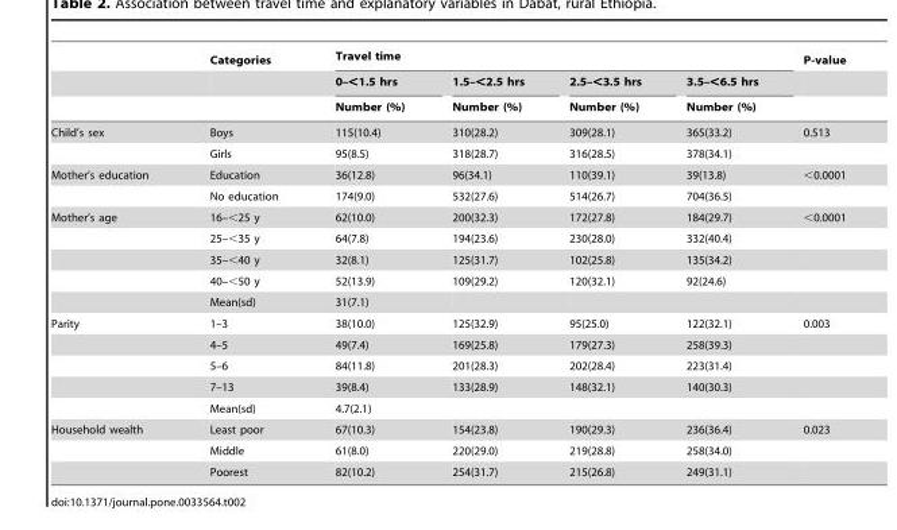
<table><thead><tr><td rowspan="3"></td><td rowspan="3">Categories</td><td colspan="4">Travel time</td><td rowspan="3">P-value</td></tr><tr><td rowspan="2">0–&lt;1.5 hrs Number (%)</td><td rowspan="2">1.5–&lt;2.5 hrs Number (%)</td><td rowspan="2">2.5–&lt;3.5 hrs Number (%)</td><td rowspan="2">3.5–&lt;6.5 hrs Number (%)</td></tr><tr></tr></thead><tbody><tr><td rowspan="2">Child’s sex</td><td>Boys</td><td>115(10.4)</td><td>310(28.2)</td><td>309(28.1)</td><td>365(33.2)</td><td>0.513</td></tr><tr><td>Girls</td><td>95(8.5)</td><td>318(28.7)</td><td>316(28.5)</td><td>378(34.1)</td><td></td></tr><tr><td rowspan="2">Mother’s education</td><td>Education</td><td>36(12.8)</td><td>96(34.1)</td><td>110(39.1)</td><td>39(13.8)</td><td>&lt;0.0001</td></tr><tr><td>No education</td><td>174(9.0)</td><td>532(27.6)</td><td>514(26.7)</td><td>704(36.5)</td><td></td></tr><tr><td rowspan="5">Mother’s age</td><td>16–&lt;25 y</td><td>62(10.0)</td><td>200(32.3)</td><td>172(27.8)</td><td>184(29.7)</td><td>&lt;0.0001</td></tr><tr><td>25–&lt;35 y</td><td>64(7.8)</td><td>194(23.6)</td><td>230(28.0)</td><td>332(40.4)</td><td></td></tr><tr><td>35–&lt;40 y</td><td>32(8.1)</td><td>125(31.7)</td><td>102(25.8)</td><td>135(34.2)</td><td></td></tr><tr><td>40–&lt;50 y</td><td>52(13.9)</td><td>109(29.2)</td><td>120(32.1)</td><td>92(24.6)</td><td></td></tr><tr><td>Mean(sd)</td><td>31(7.1)</td><td></td><td></td><td></td><td></td></tr><tr><td rowspan="5">Parity</td><td>1–3</td><td>38(10.0)</td><td>125(32.9)</td><td>95(25.0)</td><td>122(32.1)</td><td>0.003</td></tr><tr><td>4–5</td><td>49(7.4)</td><td>169(25.8)</td><td>179(27.3)</td><td>258(39.3)</td><td></td></tr><tr><td>5–6</td><td>84(11.8)</td><td>201(28.3)</td><td>202(28.4)</td><td>223(31.4)</td><td></td></tr><tr><td>7–13</td><td>39(8.4)</td><td>133(28.9)</td><td>148(32.1)</td><td>140(30.3)</td><td></td></tr><tr><td>Mean(sd)</td><td>4.7(2.1)</td><td></td><td></td><td></td><td></td></tr><tr><td rowspan="3">Household wealth</td><td>Least poor</td><td>67(10.3)</td><td>154(23.8)</td><td>190(29.3)</td><td>236(36.4)</td><td>0.023</td></tr><tr><td>Middle</td><td>61(8.0)</td><td>220(29.0)</td><td>219(28.8)</td><td>258(34.0)</td><td></td></tr><tr><td>Poorest</td><td>82(10.2)</td><td>254(31.7)</td><td>215(26.8)</td><td>249(31.1)</td><td></td></tr></tbody></table>